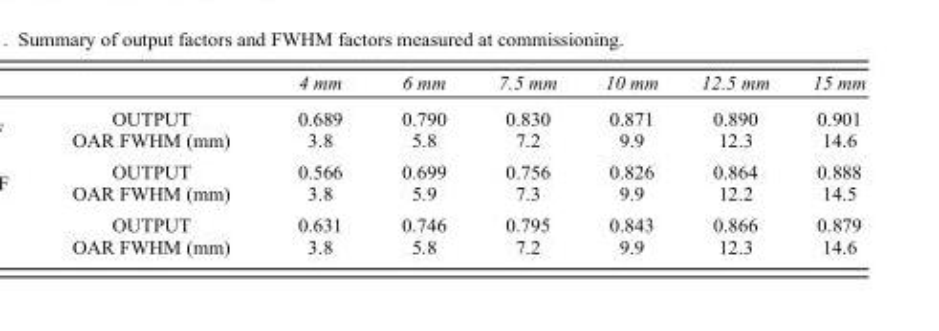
<table><thead><tr><td></td><td>4 mm</td><td>6 mm</td><td>7.5 mm</td><td>10 mm</td><td>12.5 mm</td><td>15 mm</td></tr></thead><tbody><tr><td>OUTPUT</td><td>0.689</td><td>0.790</td><td>0.830</td><td>0.871</td><td>0.890</td><td>0.901</td></tr><tr><td>OAR FWHM (mm)</td><td>3.8</td><td>5.8</td><td>7.2</td><td>9.9</td><td>12.3</td><td>14.6</td></tr><tr><td>OUTPUT</td><td>0.566</td><td>0.699</td><td>0.756</td><td>0.826</td><td>0.864</td><td>0.888</td></tr><tr><td>OAR FWHM (mm)</td><td>3.8</td><td>5.9</td><td>7.3</td><td>9.9</td><td>12.2</td><td>14.5</td></tr><tr><td>OUTPUT</td><td>0.631</td><td>0.746</td><td>0.795</td><td>0.843</td><td>0.866</td><td>0.879</td></tr><tr><td>OAR FWHM (mm)</td><td>3.8</td><td>5.8</td><td>7.2</td><td>9.9</td><td>12.3</td><td>14.6</td></tr></tbody></table>